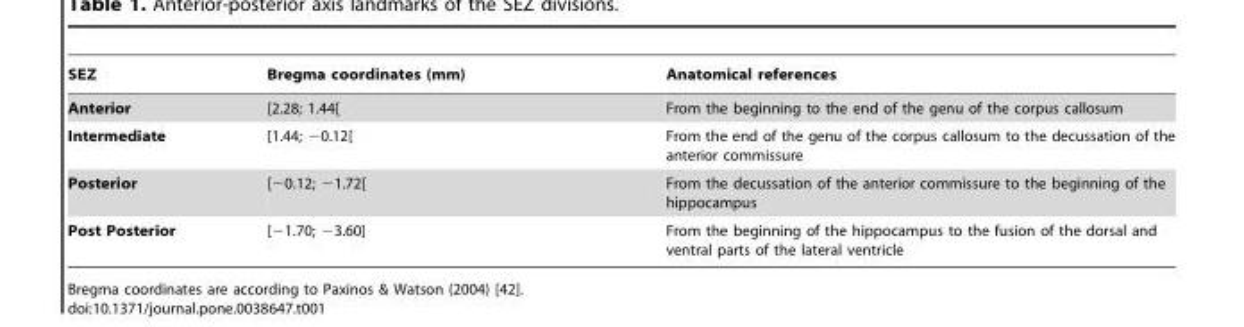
<table><thead><tr><td>SEZ</td><td>Bregma coordinates (mm)</td><td>Anatomical references</td></tr></thead><tbody><tr><td>Anterior</td><td>[2.28; 1.44[</td><td>From the beginning to the end of the genu of the corpus callosum</td></tr><tr><td>Intermediate</td><td>[1.44; −0.12[</td><td>From the end of the genu of the corpus callosum to the decussation of the anterior commissure</td></tr><tr><td>Posterior</td><td>[−0.12; −1.72[</td><td>From the decussation of the anterior commissure to the beginning of the hippocampus</td></tr><tr><td>Post Posterior</td><td>[−1.70; −3.60]</td><td>From the beginning of the hippocampus to the fusion of the dorsal and ventral parts of the lateral ventricle</td></tr></tbody></table>